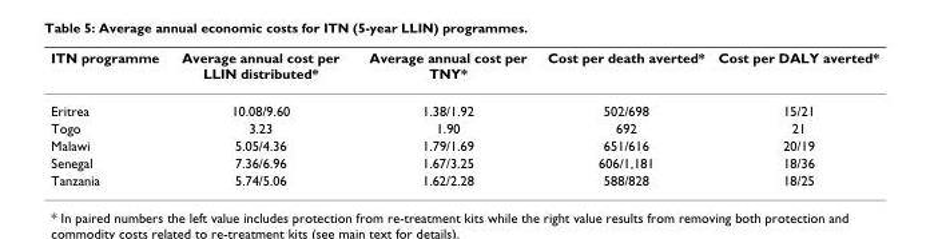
<table><thead><tr><td>ITN programme</td><td>Average annual cost per LLIN distributed*</td><td>Average annual cost per TNY*</td><td>Cost per death averted*</td><td>Cost per DALY averted*</td></tr></thead><tbody><tr><td>Eritrea</td><td>10.08/9.60</td><td>1.38/1.92</td><td>502/698</td><td>15/21</td></tr><tr><td>Togo</td><td>3.23</td><td>1.90</td><td>692</td><td>21</td></tr><tr><td>Malawi</td><td>5.05/4.36</td><td>1.79/1.69</td><td>651/616</td><td>20/19</td></tr><tr><td>Senegal</td><td>7.36/6.96</td><td>1.67/3.25</td><td>606/1,181</td><td>18/36</td></tr><tr><td>Tanzania</td><td>5.74/5.06</td><td>1.62/2.28</td><td>588/828</td><td>18/25</td></tr></tbody></table>